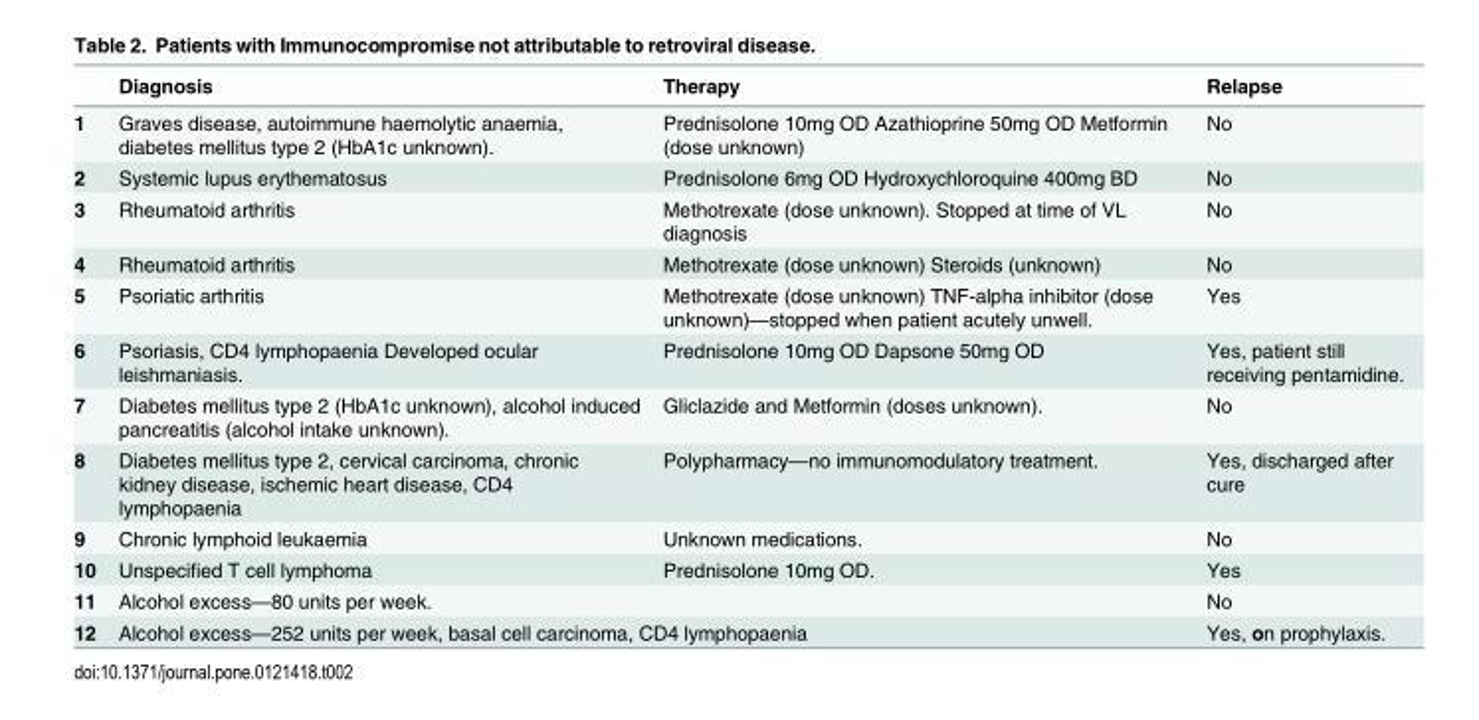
<table><thead><tr><td></td><td>Diagnosis</td><td>Therapy</td><td>Relapse</td></tr></thead><tbody><tr><td>1</td><td>Graves disease, autoimmune haemolytic anaemia, diabetes mellitus type 2 (HbA1c unknown).</td><td>Prednisolone 10mg OD Azathioprine 50mg OD Metformin (dose unknown)</td><td>No</td></tr><tr><td>2</td><td>Systemic lupus erythematosus</td><td>Prednisolone 6mg OD Hydroxychloroquine 400mg BD</td><td>No</td></tr><tr><td>3</td><td>Rheumatoid arthritis</td><td>Methotrexate (dose unknown). Stopped at time of VL diagnosis</td><td>No</td></tr><tr><td>4</td><td>Rheumatoid arthritis</td><td>Methotrexate (dose unknown) Steroids (unknown)</td><td>No</td></tr><tr><td>5</td><td>Psoriatic arthritis</td><td>Methotrexate (dose unknown) TNF-alpha inhibitor (dose unknown)—stopped when patient acutely unwell.</td><td>Yes</td></tr><tr><td>6</td><td>Psoriasis, CD4 lymphopaenia Developed ocular leishmaniasis.</td><td>Prednisolone 10mg OD Dapsone 50mg OD</td><td>Yes, patient still receiving pentamidine.</td></tr><tr><td>7</td><td>Diabetes mellitus type 2 (HbA1c unknown), alcohol induced pancreatitis (alcohol intake unknown).</td><td>Gliclazide and Metformin (doses unknown).</td><td>No</td></tr><tr><td>8</td><td>Diabetes mellitus type 2, cervical carcinoma, chronic kidney disease, ischemic heart disease, CD4 lymphopaenia</td><td>Polypharmacy—no immunomodulatory treatment.</td><td>Yes, discharged after cure</td></tr><tr><td>9</td><td>Chronic lymphoid leukaemia</td><td>Unknown medications.</td><td>No</td></tr><tr><td>10</td><td>Unspecified T cell lymphoma</td><td>Prednisolone 10mg OD.</td><td>Yes</td></tr><tr><td>11</td><td colspan="2">Alcohol excess—80 units per week.</td><td>No</td></tr><tr><td>12</td><td colspan="2">Alcohol excess—252 units per week, basal cell carcinoma, CD4 lymphopaenia</td><td>Yes, on prophylaxis.</td></tr></tbody></table>